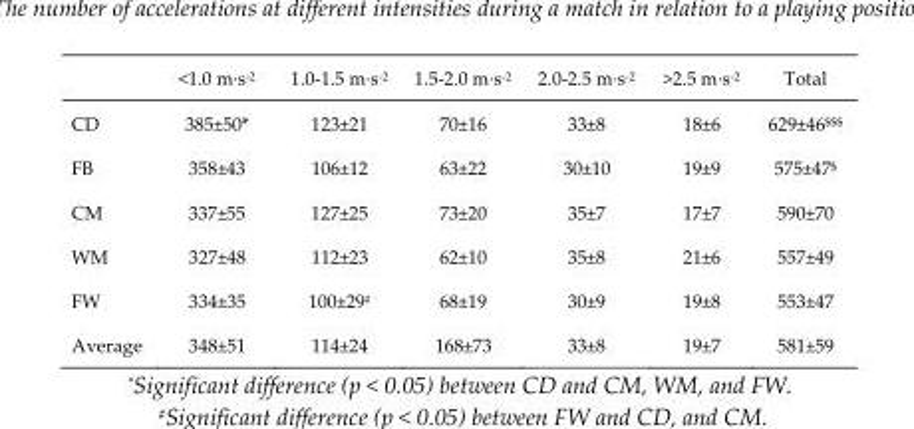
<table><thead><tr><td></td><td>&lt;1.0 m·s<sup>-2</sup></td><td>1.0-1.5 m·s<sup>-2</sup></td><td>1.5-2.0 m·s<sup>-2</sup></td><td>2.0-2.5 m·s<sup>-2</sup></td><td>&gt;2.5 m·s<sup>-2</sup></td><td>Total</td></tr></thead><tbody><tr><td>CD</td><td>385±50*</td><td>123±21</td><td>70±16</td><td>33±8</td><td>18±6</td><td>629±46$$$</td></tr><tr><td>FB</td><td>358±43</td><td>106±12</td><td>63±22</td><td>30±10</td><td>19±9</td><td>575±47$</td></tr><tr><td>CM</td><td>337±55</td><td>127±25</td><td>73±20</td><td>35±7</td><td>17±7</td><td>590±70</td></tr><tr><td>WM</td><td>327±48</td><td>112±23</td><td>62±10</td><td>35±8</td><td>21±6</td><td>557±49</td></tr><tr><td>FW</td><td>334±35</td><td>100±29#</td><td>68±19</td><td>30±9</td><td>19±8</td><td>553±47</td></tr><tr><td>Average</td><td>348±51</td><td>114±24</td><td>168±73</td><td>33±8</td><td>19±7</td><td>581±59</td></tr></tbody></table>